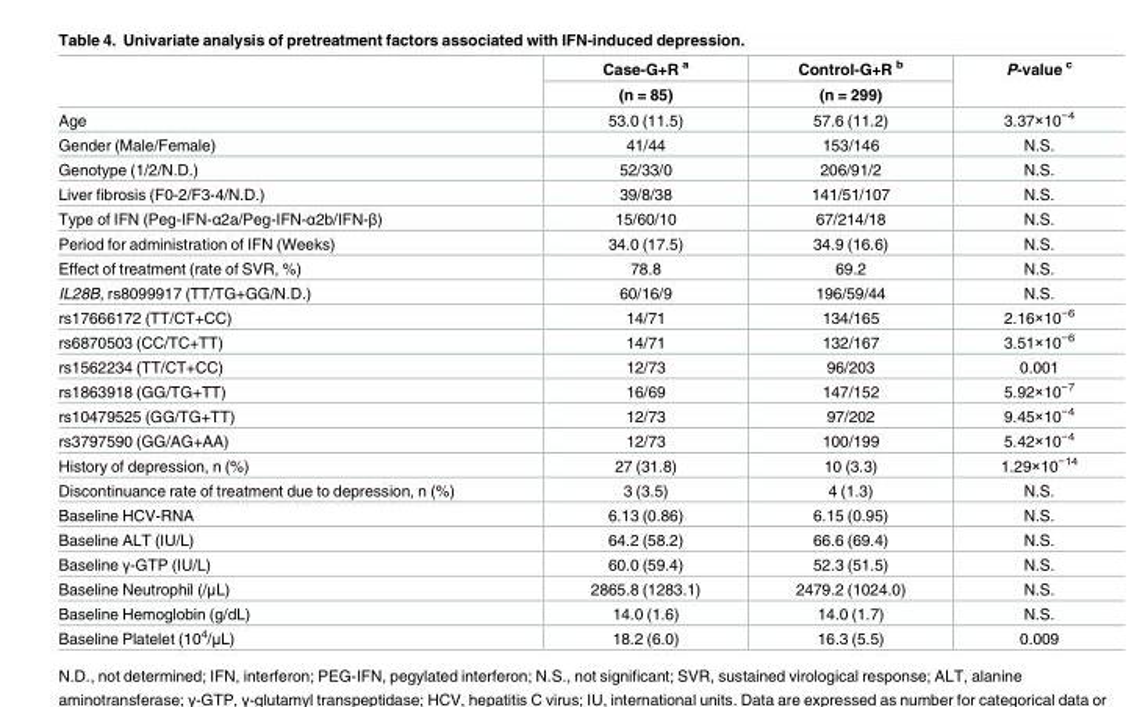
<table><thead><tr><td rowspan="2"></td><td rowspan="2">Case-G+R <sup>a</sup> (n = 85)</td><td rowspan="2">Control-G+R <sup>b</sup> (n = 299)</td><td rowspan="2">P-value <sup>c</sup></td></tr><tr></tr></thead><tbody><tr><td>Age</td><td>53.0 (11.5)</td><td>57.6 (11.2)</td><td>3.37×10<sup>−4</sup></td></tr><tr><td>Gender (Male/Female)</td><td>41/44</td><td>153/146</td><td>N.S.</td></tr><tr><td>Genotype (1/2/N.D.)</td><td>52/33/0</td><td>206/91/2</td><td>N.S.</td></tr><tr><td>Liver fibrosis (F0-2/F3-4/N.D.)</td><td>39/8/38</td><td>141/51/107</td><td>N.S.</td></tr><tr><td>Type of IFN (Peg-IFN-α2a/Peg-IFN-α2b/IFN-β)</td><td>15/60/10</td><td>67/214/18</td><td>N.S.</td></tr><tr><td>Period for administration of IFN (Weeks)</td><td>34.0 (17.5)</td><td>34.9 (16.6)</td><td>N.S.</td></tr><tr><td>Effect of treatment (rate of SVR, %)</td><td>78.8</td><td>69.2</td><td>N.S.</td></tr><tr><td>IL28B, rs8099917 (TT/TG+GG/N.D.)</td><td>60/16/9</td><td>196/59/44</td><td>N.S.</td></tr><tr><td>rs17666172 (TT/CT+CC)</td><td>14/71</td><td>134/165</td><td>2.16×10<sup>−6</sup></td></tr><tr><td>rs6870503 (CC/TC+TT)</td><td>14/71</td><td>132/167</td><td>3.51×10<sup>−6</sup></td></tr><tr><td>rs1562234 (TT/CT+CC)</td><td>12/73</td><td>96/203</td><td>0.001</td></tr><tr><td>rs1863918 (GG/TG+TT)</td><td>16/69</td><td>147/152</td><td>5.92×10<sup>−7</sup></td></tr><tr><td>rs10479525 (GG/TG+TT)</td><td>12/73</td><td>97/202</td><td>9.45×10<sup>−4</sup></td></tr><tr><td>rs3797590 (GG/AG+AA)</td><td>12/73</td><td>100/199</td><td>5.42×10<sup>−4</sup></td></tr><tr><td>History of depression, n (%)</td><td>27 (31.8)</td><td>10 (3.3)</td><td>1.29×10<sup>−14</sup></td></tr><tr><td>Discontinuance rate of treatment due to depression, n (%)</td><td>3 (3.5)</td><td>4 (1.3)</td><td>N.S.</td></tr><tr><td>Baseline HCV-RNA</td><td>6.13 (0.86)</td><td>6.15 (0.95)</td><td>N.S.</td></tr><tr><td>Baseline ALT (IU/L)</td><td>64.2 (58.2)</td><td>66.6 (69.4)</td><td>N.S.</td></tr><tr><td>Baseline γ-GTP (IU/L)</td><td>60.0 (59.4)</td><td>52.3 (51.5)</td><td>N.S.</td></tr><tr><td>Baseline Neutrophil (/μL)</td><td>2865.8 (1283.1)</td><td>2479.2 (1024.0)</td><td>N.S.</td></tr><tr><td>Baseline Hemoglobin (g/dL)</td><td>14.0 (1.6)</td><td>14.0 (1.7)</td><td>N.S.</td></tr><tr><td>Baseline Platelet (10<sup>4</sup>/μL)</td><td>18.2 (6.0)</td><td>16.3 (5.5)</td><td>0.009</td></tr></tbody></table>